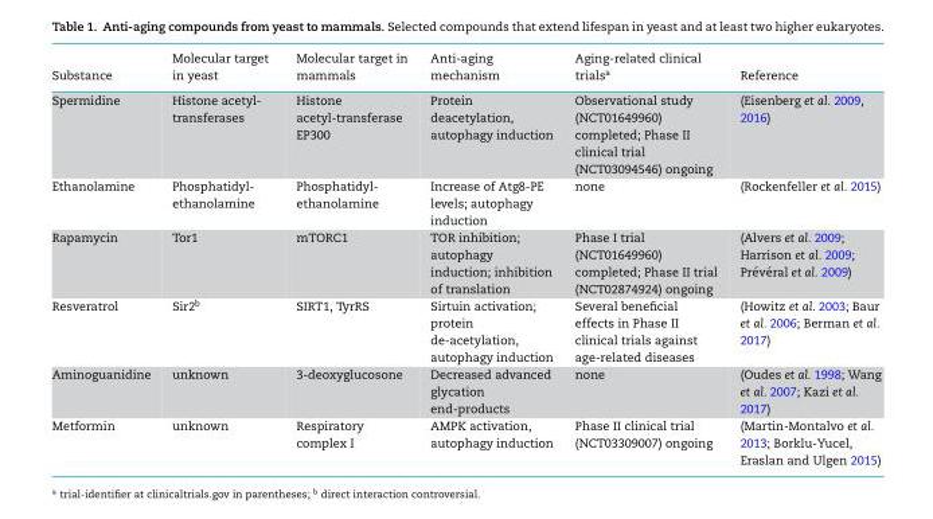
<table><thead><tr><td>Substance</td><td>Molecular target in yeast</td><td>Molecular target in mammals</td><td>Anti-aging mechanism</td><td>Aging-related clinical trials<sup>a</sup></td><td>Reference</td></tr></thead><tbody><tr><td>Spermidine</td><td>Histone acetyl- transferases</td><td>Histone acetyl-transferase EP300</td><td>Protein deacetylation, autophagy induction</td><td>Observational study (NCT01649960) completed; Phase II clinical trial (NCT03094546) ongoing</td><td>(Eisenberg et al. <sup>2009</sup>, <sup>2016</sup>)</td></tr><tr><td>Ethanolamine</td><td>Phosphatidyl- ethanolamine</td><td>Phosphatidyl- ethanolamine</td><td>Increase of Atg8-PE levels; autophagy induction</td><td>none</td><td>(Rockenfeller et al. <sup>2015</sup>)</td></tr><tr><td>Rapamycin</td><td>Tor1</td><td>mTORC1</td><td>TOR inhibition; autophagy induction; inhibition of translation</td><td>Phase I trial (NCT01649960) completed; Phase II trial (NCT02874924) ongoing</td><td>(Alvers et al. 2009; Harrison et al. 2009; Pr´ev´eral et al. 2009)</td></tr><tr><td>Resveratrol</td><td>Sir2<sup>b</sup></td><td>SIRT1, TyrRS</td><td>Sirtuin activation; protein de-acetylation, autophagy induction</td><td>Several beneficial effects in Phase II clinical trials against age-related diseases</td><td>(Howitz et al. <sup>2003</sup>; Baur et al. <sup>2006</sup>; Berman et al. <sup>2017</sup>)</td></tr><tr><td>Aminoguanidine</td><td>unknown</td><td>3-deoxyglucosone</td><td>Decreased advanced glycation end-products</td><td>none</td><td>(Oudes et al. <sup>1998</sup>; Wang et al. <sup>2007</sup>; Kazi et al. <sup>2017</sup>)</td></tr><tr><td>Metformin</td><td>unknown</td><td>Respiratory complex I</td><td>AMPK activation, autophagy induction</td><td>Phase II clinical trial (NCT03309007) ongoing</td><td>(Martin-Montalvo et al. <sup>2013</sup>; Borklu-Yucel, Eraslan and Ulgen 2015)</td></tr></tbody></table>